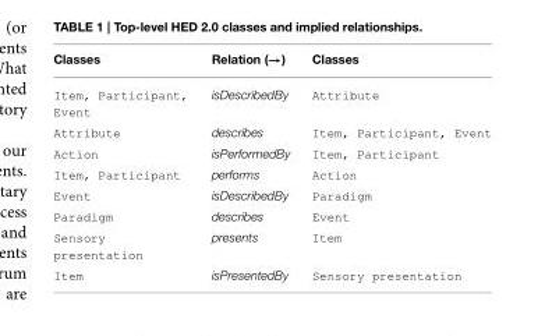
<table><thead><tr><td>Classes</td><td>Relation (→)</td><td>Classes</td></tr></thead><tbody><tr><td>Item, Participant, Event</td><td>isDescribedBy</td><td>Attribute</td></tr><tr><td>Attribute</td><td>describes</td><td>Item, Participant, Event</td></tr><tr><td>Action</td><td>isPerformedBy</td><td>Item, Participant</td></tr><tr><td>Item, Participant</td><td>performs</td><td>Action</td></tr><tr><td>Event</td><td>isDescribedBy</td><td>Paradigm</td></tr><tr><td>Paradigm</td><td>describes</td><td>Event</td></tr><tr><td>Sensory presentation</td><td>presents</td><td>Item</td></tr><tr><td>Item</td><td>isPresentedBy</td><td>Sensory presentation</td></tr></tbody></table>